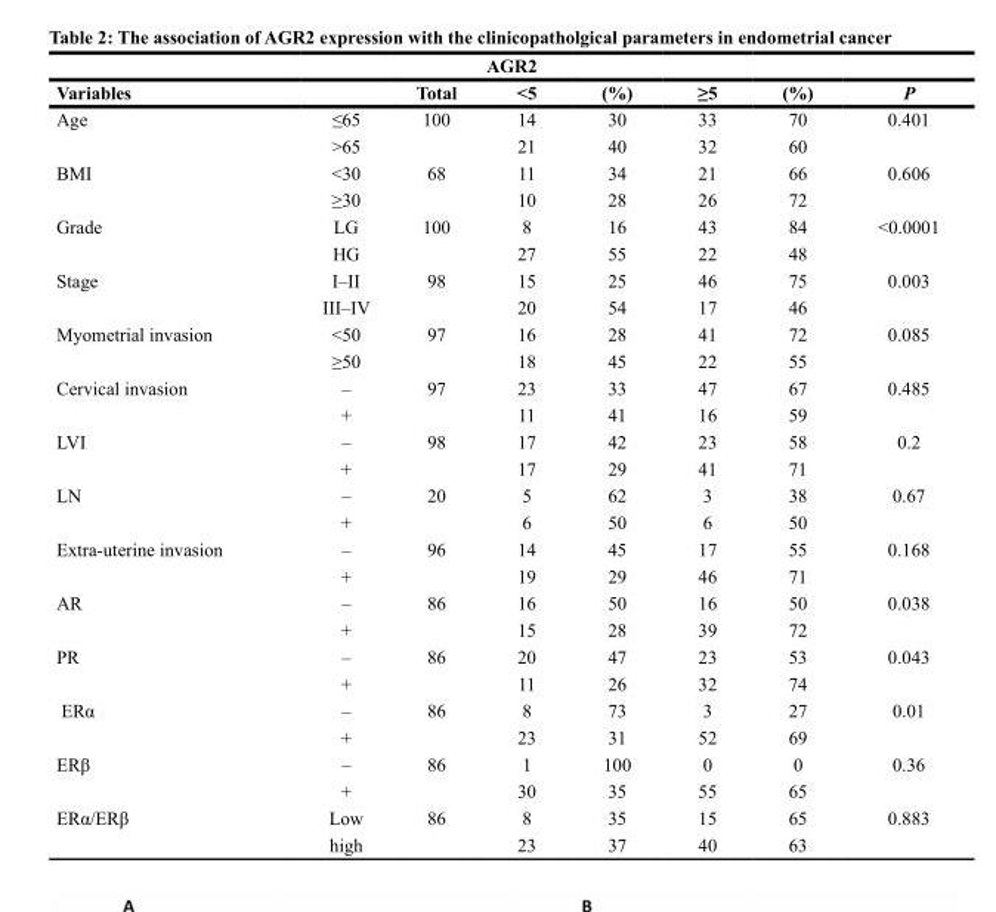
<table><thead><tr><td colspan="8">AGR2</td></tr><tr><td>Variables</td><td></td><td>Total</td><td>&lt;5</td><td>(%)</td><td>≥5</td><td>(%)</td><td>P</td></tr></thead><tbody><tr><td rowspan="2">Age</td><td>≤65</td><td>100</td><td>14</td><td>30</td><td>33</td><td>70</td><td>0.401</td></tr><tr><td>&gt;65</td><td></td><td>21</td><td>40</td><td>32</td><td>60</td><td></td></tr><tr><td rowspan="2">BMI</td><td>&lt;30</td><td>68</td><td>11</td><td>34</td><td>21</td><td>66</td><td>0.606</td></tr><tr><td>≥30</td><td></td><td>10</td><td>28</td><td>26</td><td>72</td><td></td></tr><tr><td rowspan="2">Grade</td><td>LG</td><td>100</td><td>8</td><td>16</td><td>43</td><td>84</td><td>&lt;0.0001</td></tr><tr><td>HG</td><td></td><td>27</td><td>55</td><td>22</td><td>48</td><td></td></tr><tr><td rowspan="2">Stage</td><td>I–II</td><td>98</td><td>15</td><td>25</td><td>46</td><td>75</td><td>0.003</td></tr><tr><td>III–IV</td><td></td><td>20</td><td>54</td><td>17</td><td>46</td><td></td></tr><tr><td rowspan="2">Myometrial invasion</td><td>&lt;50</td><td>97</td><td>16</td><td>28</td><td>41</td><td>72</td><td>0.085</td></tr><tr><td>≥50</td><td></td><td>18</td><td>45</td><td>22</td><td>55</td><td></td></tr><tr><td rowspan="2">Cervical invasion</td><td>–</td><td>97</td><td>23</td><td>33</td><td>47</td><td>67</td><td>0.485</td></tr><tr><td>+</td><td></td><td>11</td><td>41</td><td>16</td><td>59</td><td></td></tr><tr><td rowspan="2">LVI</td><td>–</td><td>98</td><td>17</td><td>42</td><td>23</td><td>58</td><td>0.2</td></tr><tr><td>+</td><td></td><td>17</td><td>29</td><td>41</td><td>71</td><td></td></tr><tr><td rowspan="2">LN</td><td>–</td><td>20</td><td>5</td><td>62</td><td>3</td><td>38</td><td>0.67</td></tr><tr><td>+</td><td></td><td>6</td><td>50</td><td>6</td><td>50</td><td></td></tr><tr><td rowspan="2">Extra-uterine invasion</td><td>–</td><td>96</td><td>14</td><td>45</td><td>17</td><td>55</td><td>0.168</td></tr><tr><td>+</td><td></td><td>19</td><td>29</td><td>46</td><td>71</td><td></td></tr><tr><td rowspan="2">AR</td><td>–</td><td>86</td><td>16</td><td>50</td><td>16</td><td>50</td><td>0.038</td></tr><tr><td>+</td><td></td><td>15</td><td>28</td><td>39</td><td>72</td><td></td></tr><tr><td rowspan="2">PR</td><td>–</td><td>86</td><td>20</td><td>47</td><td>23</td><td>53</td><td>0.043</td></tr><tr><td>+</td><td></td><td>11</td><td>26</td><td>32</td><td>74</td><td></td></tr><tr><td rowspan="2">ERα</td><td>–</td><td>86</td><td>8</td><td>73</td><td>3</td><td>27</td><td>0.01</td></tr><tr><td>+</td><td></td><td>23</td><td>31</td><td>52</td><td>69</td><td></td></tr><tr><td rowspan="2">ERβ</td><td>–</td><td>86</td><td>1</td><td>100</td><td>0</td><td>0</td><td>0.36</td></tr><tr><td>+</td><td></td><td>30</td><td>35</td><td>55</td><td>65</td><td></td></tr><tr><td rowspan="2">ERα/ERβ</td><td>Low</td><td>86</td><td>8</td><td>35</td><td>15</td><td>65</td><td>0.883</td></tr><tr><td>high</td><td></td><td>23</td><td>37</td><td>40</td><td>63</td><td></td></tr></tbody></table>